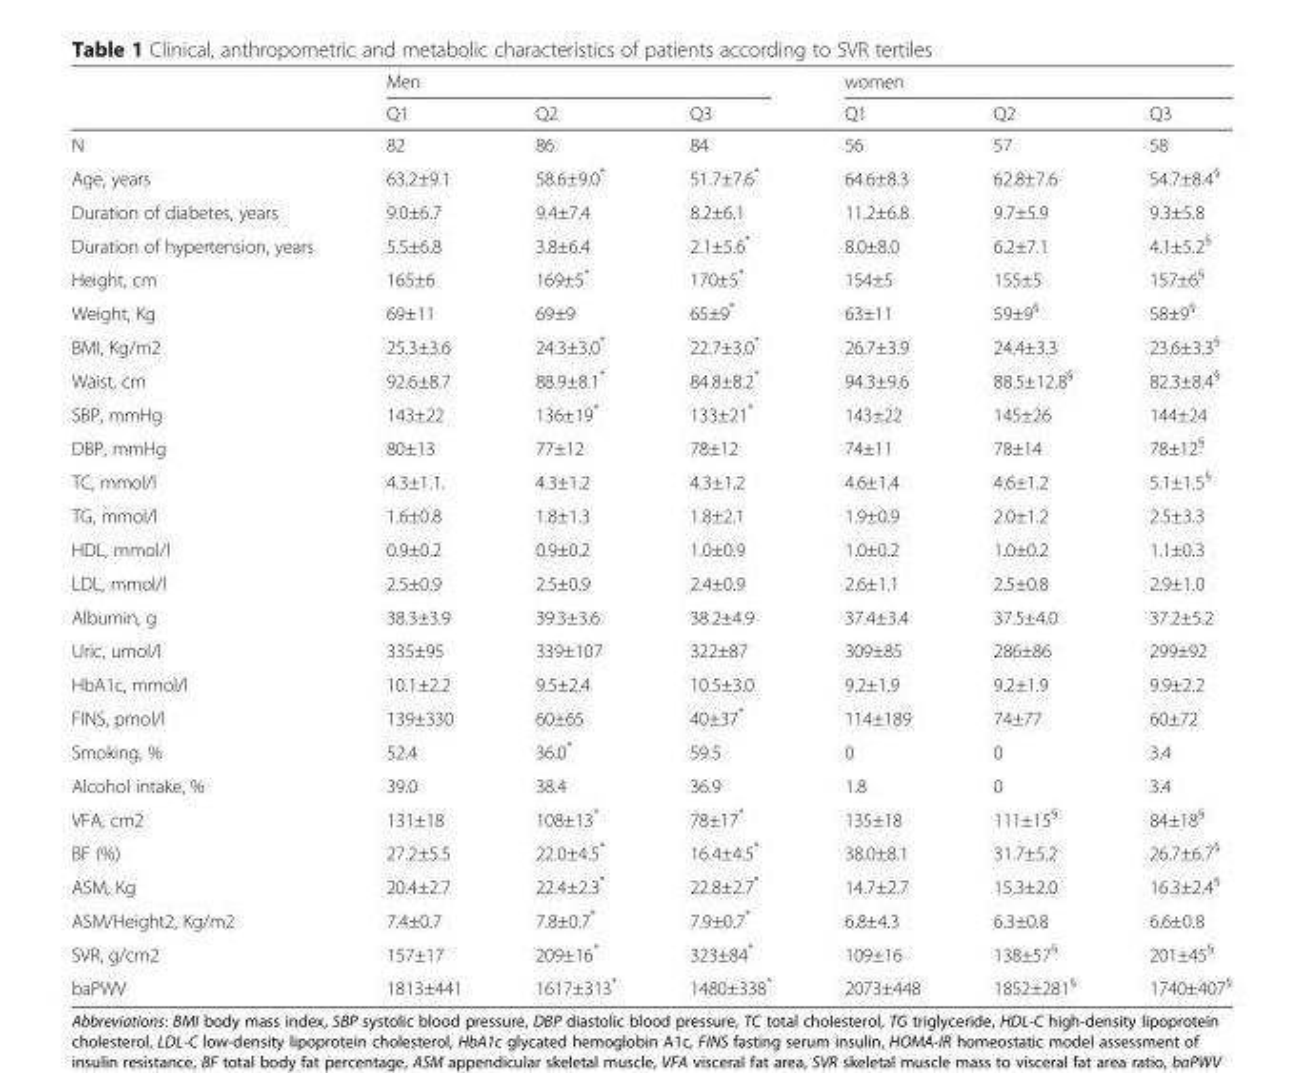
<table><thead><tr><td rowspan="2"></td><td colspan="3">Men</td><td colspan="3">women</td></tr><tr><td>Q1</td><td>Q2</td><td>Q3</td><td>Q1</td><td>Q2</td><td>Q3</td></tr></thead><tbody><tr><td>N</td><td>82</td><td>86</td><td>84</td><td>56</td><td>57</td><td>58</td></tr><tr><td>Age, years</td><td>63.2±9.1</td><td>58.6±9.0*</td><td>51.7±7.6*</td><td>64.6±8.3</td><td>62.8±7.6</td><td>54.7±8.4<sup>§</sup></td></tr><tr><td>Duration of diabetes, years</td><td>9.0±6.7</td><td>9.4±7.4</td><td>8.2±6.1</td><td>11.2±6.8</td><td>9.7±5.9</td><td>9.3±5.8</td></tr><tr><td>Duration of hypertension, years</td><td>5.5±6.8</td><td>3.8±6.4</td><td>2.1±5.6*</td><td>8.0±8.0</td><td>6.2±7.1</td><td>4.1±5.2<sup>§</sup></td></tr><tr><td>Height, cm</td><td>165±6</td><td>169±5*</td><td>170±5*</td><td>154±5</td><td>155±5</td><td>157±6<sup>§</sup></td></tr><tr><td>Weight, Kg</td><td>69±11</td><td>69±9</td><td>65±9*</td><td>63±11</td><td>59±9<sup>§</sup></td><td>58±9<sup>§</sup></td></tr><tr><td>BMI, Kg/m2</td><td>25.3±3.6</td><td>24.3±3.0*</td><td>22.7±3.0*</td><td>26.7±3.9</td><td>24.4±3.3</td><td>23.6±3.3<sup>§</sup></td></tr><tr><td>Waist, cm</td><td>92.6±8.7</td><td>88.9±8.1*</td><td>84.8±8.2*</td><td>94.3±9.6</td><td>88.5±12.8<sup>§</sup></td><td>82.3±8.4<sup>§</sup></td></tr><tr><td>SBP, mmHg</td><td>143±22</td><td>136±19*</td><td>133±21*</td><td>143±22</td><td>145±26</td><td>144±24</td></tr><tr><td>DBP, mmHg</td><td>80±13</td><td>77±12</td><td>78±12</td><td>74±11</td><td>78±14</td><td>78±12<sup>§</sup></td></tr><tr><td>TC, mmol/l</td><td>4.3±1.1.</td><td>4.3±1.2</td><td>4.3±1.2</td><td>4.6±1.4</td><td>4.6±1.2</td><td>5.1±1.5<sup>§</sup></td></tr><tr><td>TG, mmol/l</td><td>1.6±0.8</td><td>1.8±1.3</td><td>1.8±2.1</td><td>1.9±0.9</td><td>2.0±1.2</td><td>2.5±3.3</td></tr><tr><td>HDL, mmol/l</td><td>0.9±0.2</td><td>0.9±0.2</td><td>1.0±0.9</td><td>1.0±0.2</td><td>1.0±0.2</td><td>1.1±0.3</td></tr><tr><td>LDL, mmol/l</td><td>2.5±0.9</td><td>2.5±0.9</td><td>2.4±0.9</td><td>2.6±1.1</td><td>2.5±0.8</td><td>2.9±1.0</td></tr><tr><td>Albumin, g</td><td>38.3±3.9</td><td>39.3±3.6</td><td>38.2±4.9</td><td>37.4±3.4</td><td>37.5±4.0</td><td>37.2±5.2</td></tr><tr><td>Uric, umol/l</td><td>335±95</td><td>339±107</td><td>322±87</td><td>309±85</td><td>286±86</td><td>299±92</td></tr><tr><td>HbA1c, mmol/l</td><td>10.1±2.2</td><td>9.5±2.4</td><td>10.5±3.0</td><td>9.2±1.9</td><td>9.2±1.9</td><td>9.9±2.2</td></tr><tr><td>FINS, pmol/l</td><td>139±330</td><td>60±65</td><td>40±37*</td><td>114±189</td><td>74±77</td><td>60±72</td></tr><tr><td>Smoking, %</td><td>52.4</td><td>36.0*</td><td>59.5</td><td>0</td><td>0</td><td>3.4</td></tr><tr><td>Alcohol intake, %</td><td>39.0</td><td>38.4</td><td>36.9</td><td>1.8</td><td>0</td><td>3.4</td></tr><tr><td>VFA, cm2</td><td>131±18</td><td>108±13*</td><td>78±17*</td><td>135±18</td><td>111±15<sup>§</sup></td><td>84±18<sup>§</sup></td></tr><tr><td>BF (%)</td><td>27.2±5.5</td><td>22.0±4.5*</td><td>16.4±4.5*</td><td>38.0±8.1</td><td>31.7±5.2</td><td>26.7±6.7<sup>§</sup></td></tr><tr><td>ASM, Kg</td><td>20.4±2.7</td><td>22.4±2.3*</td><td>22.8±2.7*</td><td>14.7±2.7</td><td>15.3±2.0</td><td>16.3±2.4<sup>§</sup></td></tr><tr><td>ASM/Height2, Kg/m2</td><td>7.4±0.7</td><td>7.8±0.7*</td><td>7.9±0.7*</td><td>6.8±4.3</td><td>6.3±0.8</td><td>6.6±0.8</td></tr><tr><td>SVR, g/cm2</td><td>157±17</td><td>209±16*</td><td>323±84*</td><td>109±16</td><td>138±57<sup>§</sup></td><td>201±45<sup>§</sup></td></tr><tr><td>baPWV</td><td>1813±441</td><td>1617±313*</td><td>1480±338*</td><td>2073±448</td><td>1852±281<sup>§</sup></td><td>1740±407<sup>§</sup></td></tr></tbody></table>